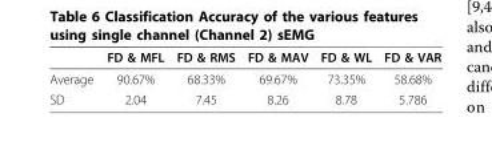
<table><thead><tr><td></td><td>FD &amp; MFL</td><td>FD &amp; RMS</td><td>FD &amp; MAV</td><td>FD &amp; WL</td><td>FD &amp; VAR</td></tr></thead><tbody><tr><td>Average</td><td>90.67%</td><td>68.33%</td><td>69.67%</td><td>73.35%</td><td>58.68%</td></tr><tr><td>SD</td><td>2.04</td><td>7.45</td><td>8.26</td><td>8.78</td><td>5.786</td></tr></tbody></table>